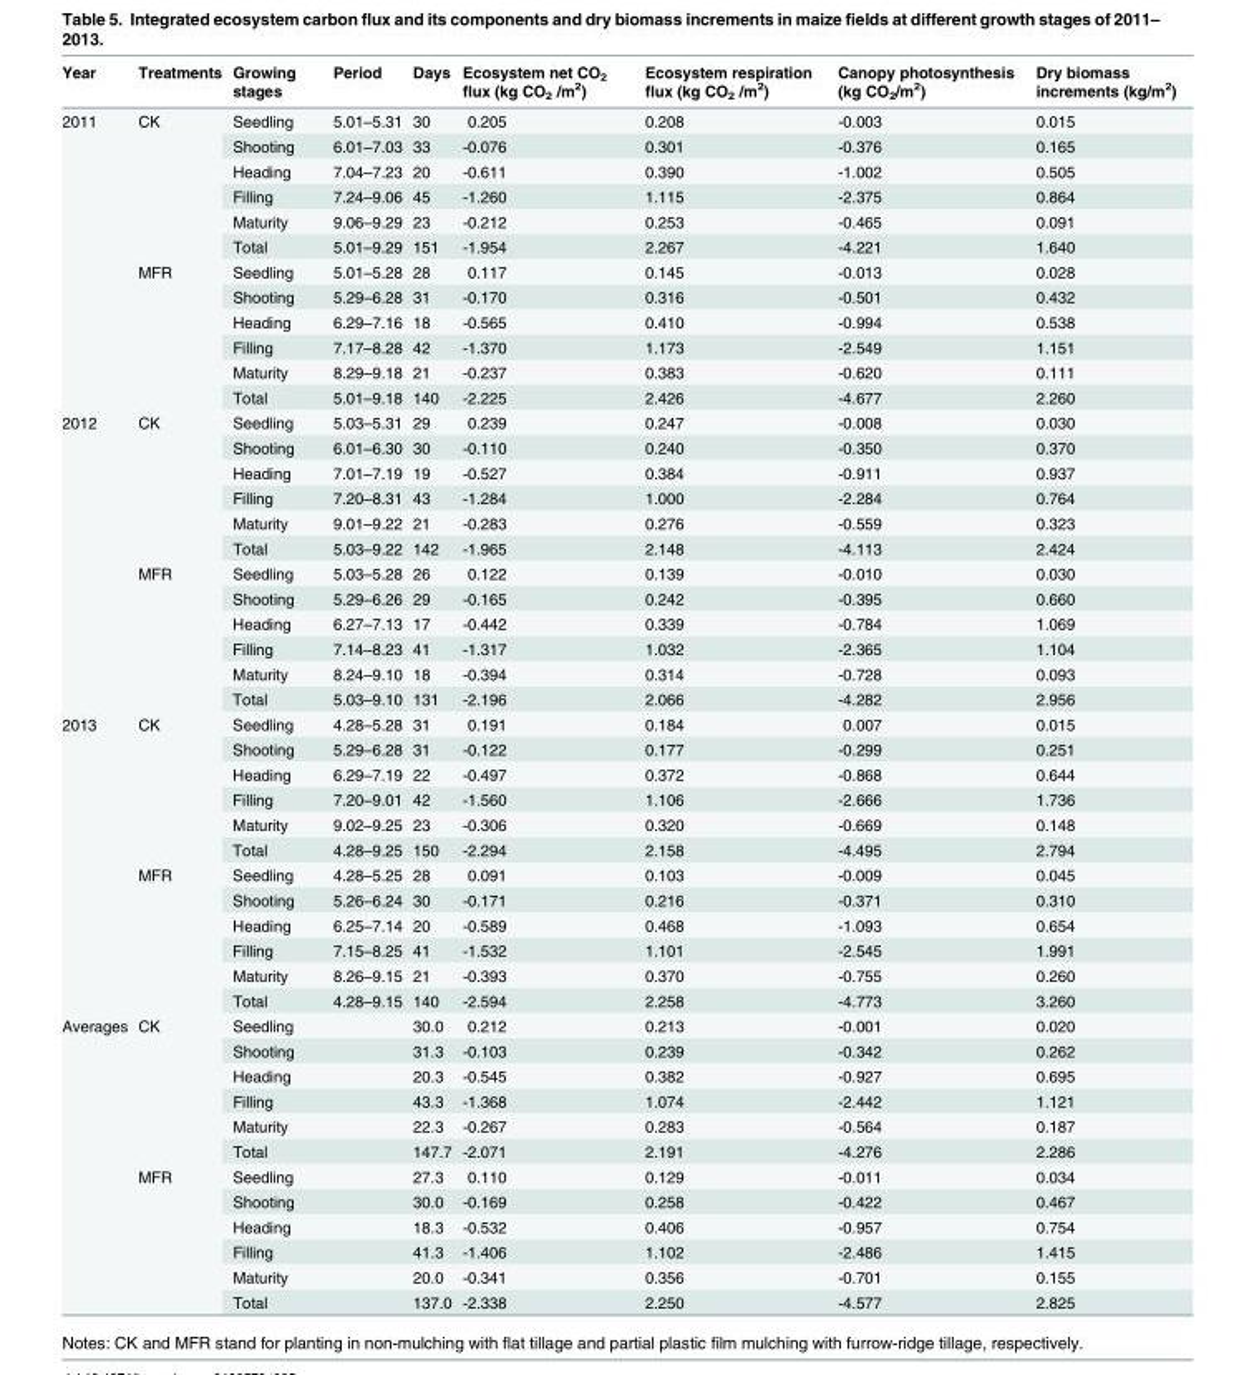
<table><thead><tr><td>Year</td><td>Treatments</td><td>Growing stages</td><td>Period</td><td>Days</td><td>Ecosystem net CO<sub>2</sub> flux (kg CO<sub>2</sub> /m<sup>2</sup>)</td><td>Ecosystem respiration flux (kg CO<sub>2</sub> /m<sup>2</sup>)</td><td>Canopy photosynthesis (kg CO<sub>2</sub>/m<sup>2</sup>)</td><td>Dry biomass increments (kg/m<sup>2</sup>)</td></tr></thead><tbody><tr><td rowspan="12">2011</td><td rowspan="6">CK</td><td>Seedling</td><td>5.01–5.31</td><td>30</td><td>0.205</td><td>0.208</td><td>-0.003</td><td>0.015</td></tr><tr><td>Shooting</td><td>6.01–7.03</td><td>33</td><td>-0.076</td><td>0.301</td><td>-0.376</td><td>0.165</td></tr><tr><td>Heading</td><td>7.04–7.23</td><td>20</td><td>-0.611</td><td>0.390</td><td>-1.002</td><td>0.505</td></tr><tr><td>Filling</td><td>7.24–9.06</td><td>45</td><td>-1.260</td><td>1.115</td><td>-2.375</td><td>0.864</td></tr><tr><td>Maturity</td><td>9.06–9.29</td><td>23</td><td>-0.212</td><td>0.253</td><td>-0.465</td><td>0.091</td></tr><tr><td>Total</td><td>5.01–9.29</td><td>151</td><td>-1.954</td><td>2.267</td><td>-4.221</td><td>1.640</td></tr><tr><td rowspan="6">MFR</td><td>Seedling</td><td>5.01–5.28</td><td>28</td><td>0.117</td><td>0.145</td><td>-0.013</td><td>0.028</td></tr><tr><td>Shooting</td><td>5.29–6.28</td><td>31</td><td>-0.170</td><td>0.316</td><td>-0.501</td><td>0.432</td></tr><tr><td>Heading</td><td>6.29–7.16</td><td>18</td><td>-0.565</td><td>0.410</td><td>-0.994</td><td>0.538</td></tr><tr><td>Filling</td><td>7.17–8.28</td><td>42</td><td>-1.370</td><td>1.173</td><td>-2.549</td><td>1.151</td></tr><tr><td>Maturity</td><td>8.29–9.18</td><td>21</td><td>-0.237</td><td>0.383</td><td>-0.620</td><td>0.111</td></tr><tr><td>Total</td><td>5.01–9.18</td><td>140</td><td>-2.225</td><td>2.426</td><td>-4.677</td><td>2.260</td></tr><tr><td rowspan="12">2012</td><td rowspan="6">CK</td><td>Seedling</td><td>5.03–5.31</td><td>29</td><td>0.239</td><td>0.247</td><td>-0.008</td><td>0.030</td></tr><tr><td>Shooting</td><td>6.01–6.30</td><td>30</td><td>-0.110</td><td>0.240</td><td>-0.350</td><td>0.370</td></tr><tr><td>Heading</td><td>7.01–7.19</td><td>19</td><td>-0.527</td><td>0.384</td><td>-0.911</td><td>0.937</td></tr><tr><td>Filling</td><td>7.20–8.31</td><td>43</td><td>-1.284</td><td>1.000</td><td>-2.284</td><td>0.764</td></tr><tr><td>Maturity</td><td>9.01–9.22</td><td>21</td><td>-0.283</td><td>0.276</td><td>-0.559</td><td>0.323</td></tr><tr><td>Total</td><td>5.03–9.22</td><td>142</td><td>-1.965</td><td>2.148</td><td>-4.113</td><td>2.424</td></tr><tr><td rowspan="6">MFR</td><td>Seedling</td><td>5.03–5.28</td><td>26</td><td>0.122</td><td>0.139</td><td>-0.010</td><td>0.030</td></tr><tr><td>Shooting</td><td>5.29–6.26</td><td>29</td><td>-0.165</td><td>0.242</td><td>-0.395</td><td>0.660</td></tr><tr><td>Heading</td><td>6.27–7.13</td><td>17</td><td>-0.442</td><td>0.339</td><td>-0.784</td><td>1.069</td></tr><tr><td>Filling</td><td>7.14–8.23</td><td>41</td><td>-1.317</td><td>1.032</td><td>-2.365</td><td>1.104</td></tr><tr><td>Maturity</td><td>8.24–9.10</td><td>18</td><td>-0.394</td><td>0.314</td><td>-0.728</td><td>0.093</td></tr><tr><td>Total</td><td>5.03–9.10</td><td>131</td><td>-2.196</td><td>2.066</td><td>-4.282</td><td>2.956</td></tr><tr><td rowspan="12">2013</td><td rowspan="6">CK</td><td>Seedling</td><td>4.28–5.28</td><td>31</td><td>0.191</td><td>0.184</td><td>0.007</td><td>0.015</td></tr><tr><td>Shooting</td><td>5.29–6.28</td><td>31</td><td>-0.122</td><td>0.177</td><td>-0.299</td><td>0.251</td></tr><tr><td>Heading</td><td>6.29–7.19</td><td>22</td><td>-0.497</td><td>0.372</td><td>-0.868</td><td>0.644</td></tr><tr><td>Filling</td><td>7.20–9.01</td><td>42</td><td>-1.560</td><td>1.106</td><td>-2.666</td><td>1.736</td></tr><tr><td>Maturity</td><td>9.02–9.25</td><td>23</td><td>-0.306</td><td>0.320</td><td>-0.669</td><td>0.148</td></tr><tr><td>Total</td><td>4.28–9.25</td><td>150</td><td>-2.294</td><td>2.158</td><td>-4.495</td><td>2.794</td></tr><tr><td rowspan="6">MFR</td><td>Seedling</td><td>4.28–5.25</td><td>28</td><td>0.091</td><td>0.103</td><td>-0.009</td><td>0.045</td></tr><tr><td>Shooting</td><td>5.26–6.24</td><td>30</td><td>-0.171</td><td>0.216</td><td>-0.371</td><td>0.310</td></tr><tr><td>Heading</td><td>6.25–7.14</td><td>20</td><td>-0.589</td><td>0.468</td><td>-1.093</td><td>0.654</td></tr><tr><td>Filling</td><td>7.15–8.25</td><td>41</td><td>-1.532</td><td>1.101</td><td>-2.545</td><td>1.991</td></tr><tr><td>Maturity</td><td>8.26–9.15</td><td>21</td><td>-0.393</td><td>0.370</td><td>-0.755</td><td>0.260</td></tr><tr><td>Total</td><td>4.28–9.15</td><td>140</td><td>-2.594</td><td>2.258</td><td>-4.773</td><td>3.260</td></tr><tr><td rowspan="12">Averages</td><td rowspan="6">CK</td><td>Seedling</td><td></td><td>30.0</td><td>0.212</td><td>0.213</td><td>-0.001</td><td>0.020</td></tr><tr><td>Shooting</td><td></td><td>31.3</td><td>-0.103</td><td>0.239</td><td>-0.342</td><td>0.262</td></tr><tr><td>Heading</td><td></td><td>20.3</td><td>-0.545</td><td>0.382</td><td>-0.927</td><td>0.695</td></tr><tr><td>Filling</td><td></td><td>43.3</td><td>-1.368</td><td>1.074</td><td>-2.442</td><td>1.121</td></tr><tr><td>Maturity</td><td></td><td>22.3</td><td>-0.267</td><td>0.283</td><td>-0.564</td><td>0.187</td></tr><tr><td>Total</td><td></td><td>147.7</td><td>-2.071</td><td>2.191</td><td>-4.276</td><td>2.286</td></tr><tr><td rowspan="6">MFR</td><td>Seedling</td><td></td><td>27.3</td><td>0.110</td><td>0.129</td><td>-0.011</td><td>0.034</td></tr><tr><td>Shooting</td><td></td><td>30.0</td><td>-0.169</td><td>0.258</td><td>-0.422</td><td>0.467</td></tr><tr><td>Heading</td><td></td><td>18.3</td><td>-0.532</td><td>0.406</td><td>-0.957</td><td>0.754</td></tr><tr><td>Filling</td><td></td><td>41.3</td><td>-1.406</td><td>1.102</td><td>-2.486</td><td>1.415</td></tr><tr><td>Maturity</td><td></td><td>20.0</td><td>-0.341</td><td>0.356</td><td>-0.701</td><td>0.155</td></tr><tr><td>Total</td><td></td><td>137.0</td><td>-2.338</td><td>2.250</td><td>-4.577</td><td>2.825</td></tr></tbody></table>